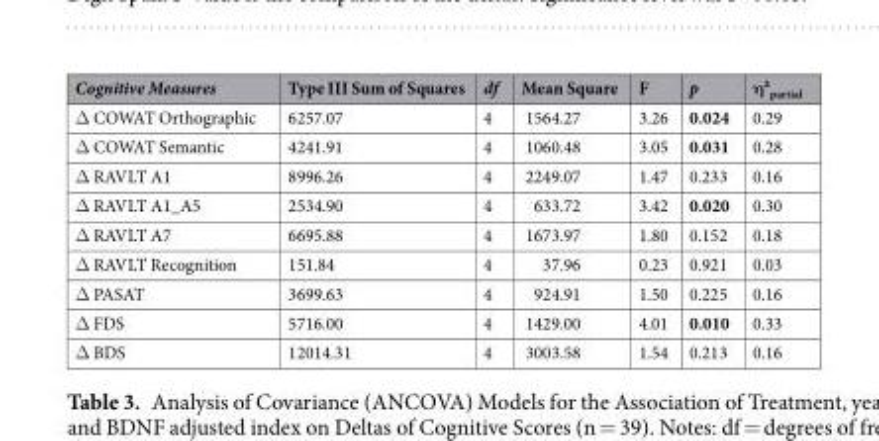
<table><thead><tr><td>Cognitive Measures</td><td>Type III Sum of Squares</td><td>df</td><td>Mean Square</td><td>F</td><td>p</td><td>η²<sub>partial</sub></td></tr></thead><tbody><tr><td>Δ COWAT Orthographic</td><td>6257.07</td><td>4</td><td>1564.27</td><td>3.26</td><td>0.024</td><td>0.29</td></tr><tr><td>Δ COWAT Semantic</td><td>4241.91</td><td>4</td><td>1060.48</td><td>3.05</td><td>0.031</td><td>0.28</td></tr><tr><td>Δ RAVLT A1</td><td>8996.26</td><td>4</td><td>2249.07</td><td>1.47</td><td>0.233</td><td>0.16</td></tr><tr><td>Δ RAVLT A1_A5</td><td>2534.90</td><td>4</td><td>633.72</td><td>3.42</td><td>0.020</td><td>0.30</td></tr><tr><td>Δ RAVLT A7</td><td>6695.88</td><td>4</td><td>1673.97</td><td>1.80</td><td>0.152</td><td>0.18</td></tr><tr><td>Δ RAVLT Recognition</td><td>151.84</td><td>4</td><td>37.96</td><td>0.23</td><td>0.921</td><td>0.03</td></tr><tr><td>Δ PASAT</td><td>3699.63</td><td>4</td><td>924.91</td><td>1.50</td><td>0.225</td><td>0.16</td></tr><tr><td>Δ FDS</td><td>5716.00</td><td>4</td><td>1429.00</td><td>4.01</td><td>0.010</td><td>0.33</td></tr><tr><td>Δ BDS</td><td>12014.31</td><td>4</td><td>3003.58</td><td>1.54</td><td>0.213</td><td>0.16</td></tr></tbody></table>